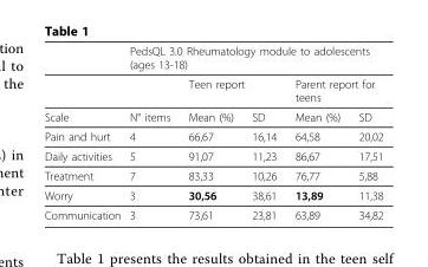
<table><thead><tr><td rowspan="3">Scale</td><td colspan="5">PedsQL 3.0 Rheumatology module to adolescents (ages 13-18)</td></tr><tr><td rowspan="2">N° items</td><td colspan="2">Teen report</td><td colspan="2">Parent report for teens</td></tr><tr><td>Mean (%)</td><td>SD</td><td>Mean (%)</td><td>SD</td></tr></thead><tbody><tr><td>Pain and hurt</td><td>4</td><td>66,67</td><td>16,14</td><td>64,58</td><td>20,02</td></tr><tr><td>Daily activities</td><td>5</td><td>91,07</td><td>11,23</td><td>86,67</td><td>17,51</td></tr><tr><td>Treatment</td><td>7</td><td>83,33</td><td>10,26</td><td>76,77</td><td>5,88</td></tr><tr><td>Worry</td><td>3</td><td>30,56</td><td>38,61</td><td>13,89</td><td>11,38</td></tr><tr><td>Communication</td><td>3</td><td>73,61</td><td>23,81</td><td>63,89</td><td>34,82</td></tr></tbody></table>